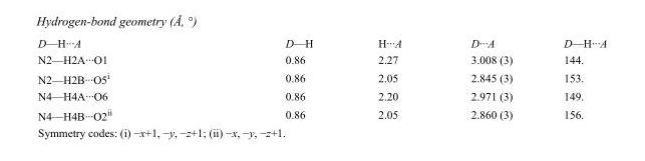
<table><tbody><tr><td>D—H···A</td><td>D—H</td><td>H···A</td><td>D···A</td><td>D—H···A</td></tr><tr><td>N2—H2A···O1</td><td>0.86</td><td>2.27</td><td>3.008 (3)</td><td>144.</td></tr><tr><td>N2—H2B···O5<sup>i</sup></td><td>0.86</td><td>2.05</td><td>2.845 (3)</td><td>153.</td></tr><tr><td>N4—H4A···O6</td><td>0.86</td><td>2.20</td><td>2.971 (3)</td><td>149.</td></tr><tr><td>N4—H4B···O2<sup>ii</sup></td><td>0.86</td><td>2.05</td><td>2.860 (3)</td><td>156.</td></tr></tbody></table>